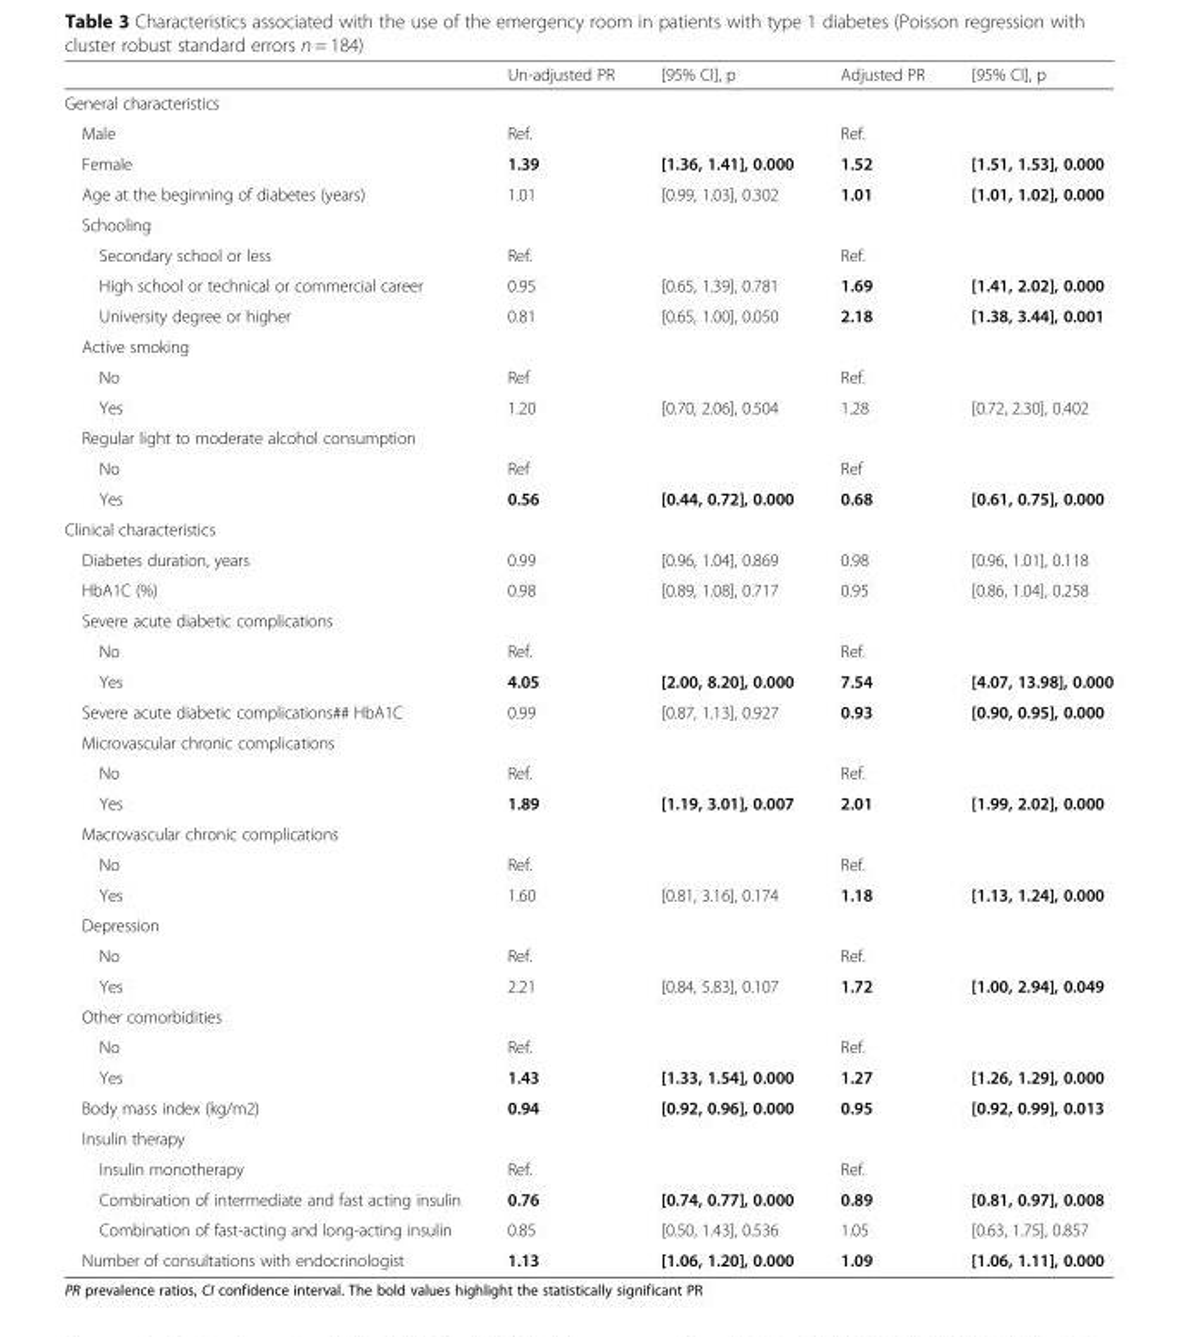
<table><thead><tr><td></td><td>Un-adjusted PR</td><td>[95% CI], p</td><td>Adjusted PR</td><td>[95% CI], p</td></tr></thead><tbody><tr><td colspan="5">General characteristics</td></tr><tr><td>Male</td><td>Ref.</td><td></td><td>Ref.</td><td></td></tr><tr><td>Female</td><td>1.39</td><td>[1.36, 1.41], 0.000</td><td>1.52</td><td>[1.51, 1.53], 0.000</td></tr><tr><td>Age at the beginning of diabetes (years)</td><td>1.01</td><td>[0.99, 1.03], 0.302</td><td>1.01</td><td>[1.01, 1.02], 0.000</td></tr><tr><td colspan="5">Schooling</td></tr><tr><td>Secondary school or less</td><td>Ref.</td><td></td><td>Ref.</td><td></td></tr><tr><td>High school or technical or commercial career</td><td>0.95</td><td>[0.65, 1.39], 0.781</td><td>1.69</td><td>[1.41, 2.02], 0.000</td></tr><tr><td>University degree or higher</td><td>0.81</td><td>[0.65, 1.00], 0.050</td><td>2.18</td><td>[1.38, 3.44], 0.001</td></tr><tr><td colspan="5">Active smoking</td></tr><tr><td>No</td><td>Ref</td><td></td><td>Ref.</td><td></td></tr><tr><td>Yes</td><td>1.20</td><td>[0.70, 2.06], 0.504</td><td>1.28</td><td>[0.72, 2.30], 0.402</td></tr><tr><td colspan="5">Regular light to moderate alcohol consumption</td></tr><tr><td>No</td><td>Ref</td><td></td><td>Ref</td><td></td></tr><tr><td>Yes</td><td>0.56</td><td>[0.44, 0.72], 0.000</td><td>0.68</td><td>[0.61, 0.75], 0.000</td></tr><tr><td colspan="5">Clinical characteristics</td></tr><tr><td>Diabetes duration, years</td><td>0.99</td><td>[0.96, 1.04], 0.869</td><td>0.98</td><td>[0.96, 1.01], 0.118</td></tr><tr><td>HbA1C (%)</td><td>0.98</td><td>[0.89, 1.08], 0.717</td><td>0.95</td><td>[0.86, 1.04], 0.258</td></tr><tr><td colspan="5">Severe acute diabetic complications</td></tr><tr><td>No</td><td>Ref.</td><td></td><td>Ref.</td><td></td></tr><tr><td>Yes</td><td>4.05</td><td>[2.00, 8.20], 0.000</td><td>7.54</td><td>[4.07, 13.98], 0.000</td></tr><tr><td>Severe acute diabetic complications## HbA1C</td><td>0.99</td><td>[0.87, 1.13], 0.927</td><td>0.93</td><td>[0.90, 0.95], 0.000</td></tr><tr><td colspan="5">Microvascular chronic complications</td></tr><tr><td>No</td><td>Ref.</td><td></td><td>Ref.</td><td></td></tr><tr><td>Yes</td><td>1.89</td><td>[1.19, 3.01], 0.007</td><td>2.01</td><td>[1.99, 2.02], 0.000</td></tr><tr><td colspan="5">Macrovascular chronic complications</td></tr><tr><td>No</td><td>Ref.</td><td></td><td>Ref.</td><td></td></tr><tr><td>Yes</td><td>1.60</td><td>[0.81, 3.16], 0.174</td><td>1.18</td><td>[1.13, 1.24], 0.000</td></tr><tr><td colspan="5">Depression</td></tr><tr><td>No</td><td>Ref.</td><td></td><td>Ref.</td><td></td></tr><tr><td>Yes</td><td>2.21</td><td>[0.84, 5.83], 0.107</td><td>1.72</td><td>[1.00, 2.94], 0.049</td></tr><tr><td colspan="5">Other comorbidities</td></tr><tr><td>No</td><td>Ref.</td><td></td><td>Ref.</td><td></td></tr><tr><td>Yes</td><td>1.43</td><td>[1.33, 1.54], 0.000</td><td>1.27</td><td>[1.26, 1.29], 0.000</td></tr><tr><td>Body mass index (kg/m2)</td><td>0.94</td><td>[0.92, 0.96], 0.000</td><td>0.95</td><td>[0.92, 0.99], 0.013</td></tr><tr><td colspan="5">Insulin therapy</td></tr><tr><td>Insulin monotherapy</td><td>Ref.</td><td></td><td>Ref.</td><td></td></tr><tr><td>Combination of intermediate and fast acting insulin</td><td>0.76</td><td>[0.74, 0.77], 0.000</td><td>0.89</td><td>[0.81, 0.97], 0.008</td></tr><tr><td>Combination of fast-acting and long-acting insulin</td><td>0.85</td><td>[0.50, 1.43], 0.536</td><td>1.05</td><td>[0.63, 1.75], 0.857</td></tr><tr><td>Number of consultations with endocrinologist</td><td>1.13</td><td>[1.06, 1.20], 0.000</td><td>1.09</td><td>[1.06, 1.11], 0.000</td></tr></tbody></table>